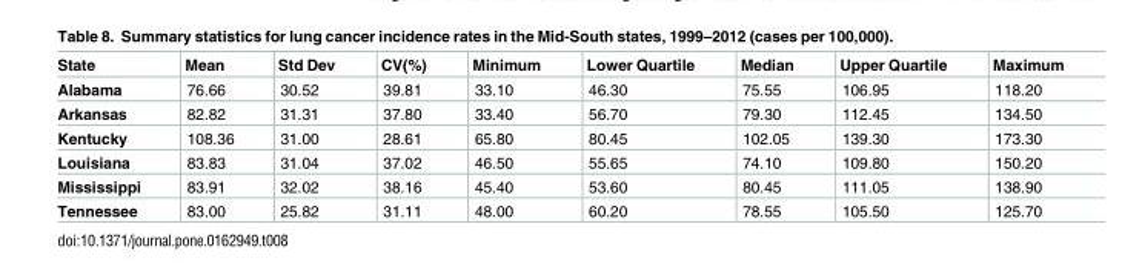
<table><thead><tr><td>State</td><td>Mean</td><td>Std Dev</td><td>CV(%)</td><td>Minimum</td><td>Lower Quartile</td><td>Median</td><td>Upper Quartile</td><td>Maximum</td></tr></thead><tbody><tr><td>Alabama</td><td>76.66</td><td>30.52</td><td>39.81</td><td>33.10</td><td>46.30</td><td>75.55</td><td>106.95</td><td>118.20</td></tr><tr><td>Arkansas</td><td>82.82</td><td>31.31</td><td>37.80</td><td>33.40</td><td>56.70</td><td>79.30</td><td>112.45</td><td>134.50</td></tr><tr><td>Kentucky</td><td>108.36</td><td>31.00</td><td>28.61</td><td>65.80</td><td>80.45</td><td>102.05</td><td>139.30</td><td>173.30</td></tr><tr><td>Louisiana</td><td>83.83</td><td>31.04</td><td>37.02</td><td>46.50</td><td>55.65</td><td>74.10</td><td>109.80</td><td>150.20</td></tr><tr><td>Mississippi</td><td>83.91</td><td>32.02</td><td>38.16</td><td>45.40</td><td>53.60</td><td>80.45</td><td>111.05</td><td>138.90</td></tr><tr><td>Tennessee</td><td>83.00</td><td>25.82</td><td>31.11</td><td>48.00</td><td>60.20</td><td>78.55</td><td>105.50</td><td>125.70</td></tr></tbody></table>